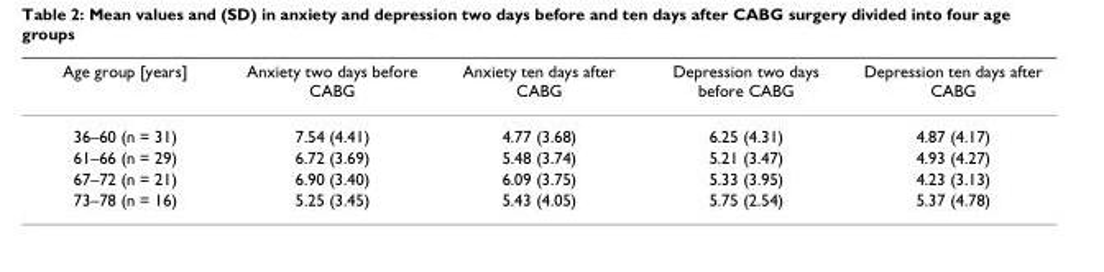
<table><thead><tr><td>Age group [years]</td><td>Anxiety two days before CABG</td><td>Anxiety ten days after CABG</td><td>Depression two days before CABG</td><td>Depression ten days after CABG</td></tr></thead><tbody><tr><td>36–60 (n = 31)</td><td>7.54 (4.41)</td><td>4.77 (3.68)</td><td>6.25 (4.31)</td><td>4.87 (4.17)</td></tr><tr><td>61–66 (n = 29)</td><td>6.72 (3.69)</td><td>5.48 (3.74)</td><td>5.21 (3.47)</td><td>4.93 (4.27)</td></tr><tr><td>67–72 (n = 21)</td><td>6.90 (3.40)</td><td>6.09 (3.75)</td><td>5.33 (3.95)</td><td>4.23 (3.13)</td></tr><tr><td>73–78 (n = 16)</td><td>5.25 (3.45)</td><td>5.43 (4.05)</td><td>5.75 (2.54)</td><td>5.37 (4.78)</td></tr></tbody></table>